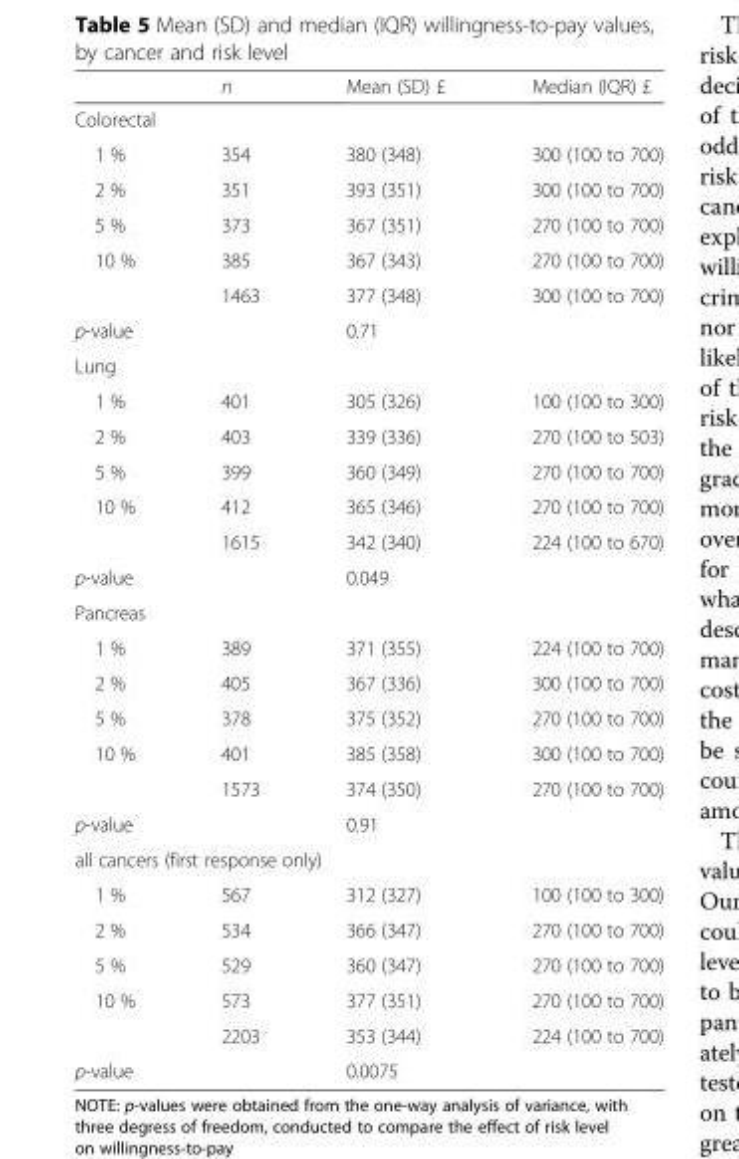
<table><thead><tr><td></td><td>n</td><td>Mean (SD) £</td><td>Median (IQR) £</td></tr></thead><tbody><tr><td colspan="4">Colorectal</td></tr><tr><td>1 %</td><td>354</td><td>380 (348)</td><td>300 (100 to 700)</td></tr><tr><td>2 %</td><td>351</td><td>393 (351)</td><td>300 (100 to 700)</td></tr><tr><td>5 %</td><td>373</td><td>367 (351)</td><td>270 (100 to 700)</td></tr><tr><td rowspan="2">10 %</td><td>385</td><td>367 (343)</td><td>270 (100 to 700)</td></tr><tr><td>1463</td><td>377 (348)</td><td>300 (100 to 700)</td></tr><tr><td>p-value</td><td></td><td>0.71</td><td></td></tr><tr><td colspan="4">Lung</td></tr><tr><td>1 %</td><td>401</td><td>305 (326)</td><td>100 (100 to 300)</td></tr><tr><td>2 %</td><td>403</td><td>339 (336)</td><td>270 (100 to 503)</td></tr><tr><td>5 %</td><td>399</td><td>360 (349)</td><td>270 (100 to 700)</td></tr><tr><td rowspan="2">10 %</td><td>412</td><td>365 (346)</td><td>270 (100 to 700)</td></tr><tr><td>1615</td><td>342 (340)</td><td>224 (100 to 670)</td></tr><tr><td>p-value</td><td></td><td>0.049</td><td></td></tr><tr><td colspan="4">Pancreas</td></tr><tr><td>1 %</td><td>389</td><td>371 (355)</td><td>224 (100 to 700)</td></tr><tr><td>2 %</td><td>405</td><td>367 (336)</td><td>300 (100 to 700)</td></tr><tr><td>5 %</td><td>378</td><td>375 (352)</td><td>270 (100 to 700)</td></tr><tr><td rowspan="2">10 %</td><td>401</td><td>385 (358)</td><td>300 (100 to 700)</td></tr><tr><td>1573</td><td>374 (350)</td><td>270 (100 to 700)</td></tr><tr><td>p-value</td><td></td><td>0.91</td><td></td></tr><tr><td colspan="4">all cancers (first response only)</td></tr><tr><td>1 %</td><td>567</td><td>312 (327)</td><td>100 (100 to 300)</td></tr><tr><td>2 %</td><td>534</td><td>366 (347)</td><td>270 (100 to 700)</td></tr><tr><td>5 %</td><td>529</td><td>360 (347)</td><td>270 (100 to 700)</td></tr><tr><td rowspan="2">10 %</td><td>573</td><td>377 (351)</td><td>270 (100 to 700)</td></tr><tr><td>2203</td><td>353 (344)</td><td>224 (100 to 700)</td></tr><tr><td>p-value</td><td></td><td>0.0075</td><td></td></tr></tbody></table>